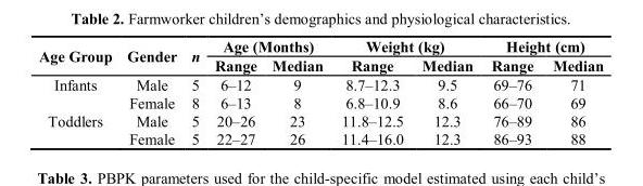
<table><thead><tr><td rowspan="2">Age Group</td><td rowspan="2">Gender</td><td rowspan="2">n</td><td colspan="2">Age (Months)</td><td colspan="2">Weight (kg)</td><td colspan="2">Height (cm)</td></tr><tr><td>Range</td><td>Median</td><td>Range</td><td>Median</td><td>Range</td><td>Median</td></tr></thead><tbody><tr><td rowspan="2">Infants</td><td>Male</td><td>5</td><td>6–12</td><td>9</td><td>8.7–12.3</td><td>9.5</td><td>69–76</td><td>71</td></tr><tr><td>Female</td><td>8</td><td>6–13</td><td>8</td><td>6.8–10.9</td><td>8.6</td><td>66–70</td><td>69</td></tr><tr><td rowspan="2">Toddlers</td><td>Male</td><td>5</td><td>20–26</td><td>23</td><td>11.8–12.5</td><td>12.3</td><td>76–89</td><td>86</td></tr><tr><td>Female</td><td>5</td><td>22–27</td><td>26</td><td>11.4–16.0</td><td>12.3</td><td>86–93</td><td>88</td></tr></tbody></table>